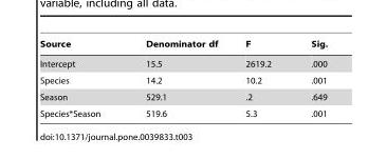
<table><thead><tr><td>Source</td><td>Denominator df</td><td>F</td><td>Sig.</td></tr></thead><tbody><tr><td>Intercept</td><td>15.5</td><td>2619.2</td><td>.000</td></tr><tr><td>Species</td><td>14.2</td><td>10.2</td><td>.001</td></tr><tr><td>Season</td><td>529.1</td><td>.2</td><td>.649</td></tr><tr><td>Species*Season</td><td>519.6</td><td>5.3</td><td>.001</td></tr></tbody></table>